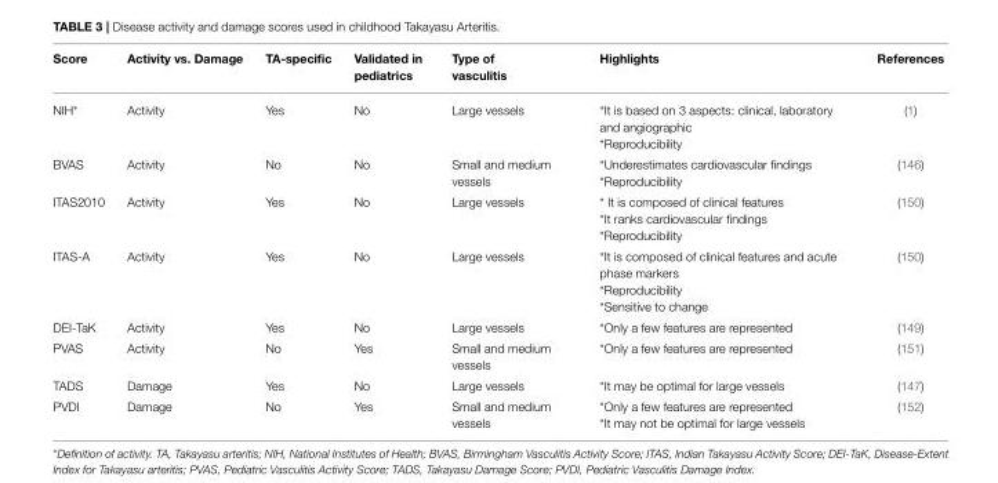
<table><thead><tr><td>Score</td><td>Activity vs. Damage</td><td>TA-specific</td><td>Validated in pediatrics</td><td>Type of vasculitis</td><td>Highlights</td><td>References</td></tr></thead><tbody><tr><td>NIH*</td><td>Activity</td><td>Yes</td><td>No</td><td>Large vessels</td><td>*It is based on 3 aspects: clinical, laboratory and angiographic *Reproducibility</td><td>(1)</td></tr><tr><td>BVAS</td><td>Activity</td><td>No</td><td>No</td><td>Small and medium vessels</td><td>*Underestimates cardiovascular findings *Reproducibility</td><td>(146)</td></tr><tr><td>ITAS2010</td><td>Activity</td><td>Yes</td><td>No</td><td>Large vessels</td><td>* It is composed of clinical features *It ranks cardiovascular findings *Reproducibility</td><td>(150)</td></tr><tr><td>ITAS-A</td><td>Activity</td><td>Yes</td><td>No</td><td>Large vessels</td><td>*It is composed of clinical features and acute phase markers *Reproducibility *Sensitive to change</td><td>(150)</td></tr><tr><td>DEI-TaK</td><td>Activity</td><td>Yes</td><td>No</td><td>Large vessels</td><td>*Only a few features are represented</td><td>(149)</td></tr><tr><td>PVAS</td><td>Activity</td><td>No</td><td>Yes</td><td>Small and medium vessels</td><td>*Only a few features are represented</td><td>(151)</td></tr><tr><td>TADS</td><td>Damage</td><td>Yes</td><td>No</td><td>Large vessels</td><td>*It may be optimal for large vessels</td><td>(147)</td></tr><tr><td>PVDI</td><td>Damage</td><td>No</td><td>Yes</td><td>Small and medium vessels</td><td>*Only a few features are represented *It may not be optimal for large vessels</td><td>(152)</td></tr></tbody></table>